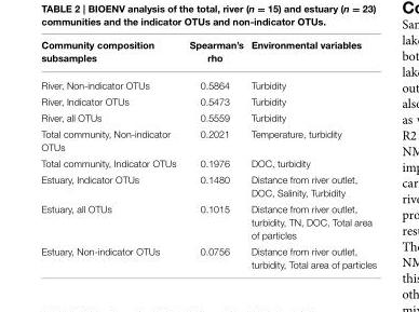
<table><thead><tr><td>Community composition subsamples</td><td>Spearman’s rho</td><td>Environmental variables</td></tr></thead><tbody><tr><td>River, Non-indicator OTUs</td><td>0.5864</td><td>Turbidity</td></tr><tr><td>River, Indicator OTUs</td><td>0.5473</td><td>Turbidity</td></tr><tr><td>River, all OTUs</td><td>0.5559</td><td>Turbidity</td></tr><tr><td>Total community, Non-indicator OTUs</td><td>0.2021</td><td>Temperature, turbidity</td></tr><tr><td>Total community, Indicator OTUs</td><td>0.1976</td><td>DOC, turbidity</td></tr><tr><td>Estuary, Indicator OTUs</td><td>0.1480</td><td>Distance from river outlet, DOC, Salinity, Turbidity</td></tr><tr><td>Estuary, all OTUs</td><td>0.1015</td><td>Distance from river outlet, turbidity, TN, DOC, Total area of particles</td></tr><tr><td>Estuary, Non-indicator OTUs</td><td>0.0756</td><td>Distance from river outlet, turbidity, Total area of particles</td></tr></tbody></table>